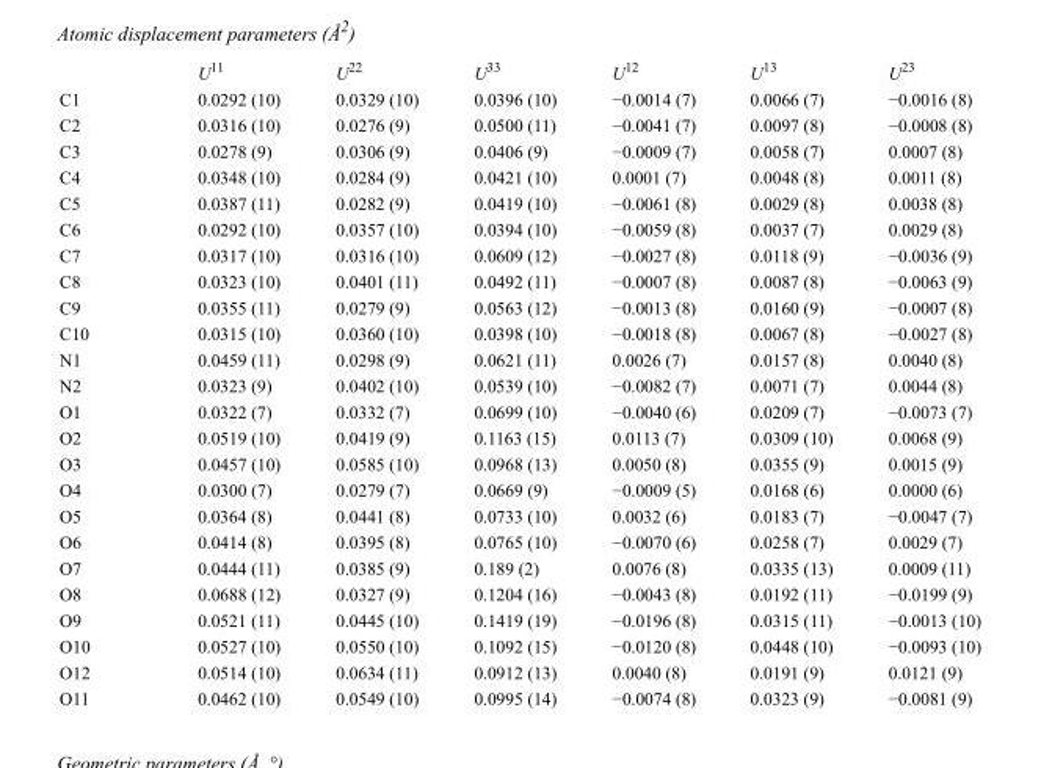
<table><thead><tr><td></td><td>U<sup>11</sup></td><td>U<sup>22</sup></td><td>U<sup>33</sup></td><td>U<sup>12</sup></td><td>U<sup>13</sup></td><td>U<sup>23</sup></td></tr></thead><tbody><tr><td>C1</td><td>0.0292 (10)</td><td>0.0329 (10)</td><td>0.0396 (10)</td><td>−0.0014 (7)</td><td>0.0066 (7)</td><td>−0.0016 (8)</td></tr><tr><td>C2</td><td>0.0316 (10)</td><td>0.0276 (9)</td><td>0.0500 (11)</td><td>−0.0041 (7)</td><td>0.0097 (8)</td><td>−0.0008 (8)</td></tr><tr><td>C3</td><td>0.0278 (9)</td><td>0.0306 (9)</td><td>0.0406 (9)</td><td>−0.0009 (7)</td><td>0.0058 (7)</td><td>0.0007 (8)</td></tr><tr><td>C4</td><td>0.0348 (10)</td><td>0.0284 (9)</td><td>0.0421 (10)</td><td>0.0001 (7)</td><td>0.0048 (8)</td><td>0.0011 (8)</td></tr><tr><td>C5</td><td>0.0387 (11)</td><td>0.0282 (9)</td><td>0.0419 (10)</td><td>−0.0061 (8)</td><td>0.0029 (8)</td><td>0.0038 (8)</td></tr><tr><td>C6</td><td>0.0292 (10)</td><td>0.0357 (10)</td><td>0.0394 (10)</td><td>−0.0059 (8)</td><td>0.0037 (7)</td><td>0.0029 (8)</td></tr><tr><td>C7</td><td>0.0317 (10)</td><td>0.0316 (10)</td><td>0.0609 (12)</td><td>−0.0027 (8)</td><td>0.0118 (9)</td><td>−0.0036 (9)</td></tr><tr><td>C8</td><td>0.0323 (10)</td><td>0.0401 (11)</td><td>0.0492 (11)</td><td>−0.0007 (8)</td><td>0.0087 (8)</td><td>−0.0063 (9)</td></tr><tr><td>C9</td><td>0.0355 (11)</td><td>0.0279 (9)</td><td>0.0563 (12)</td><td>−0.0013 (8)</td><td>0.0160 (9)</td><td>−0.0007 (8)</td></tr><tr><td>C10</td><td>0.0315 (10)</td><td>0.0360 (10)</td><td>0.0398 (10)</td><td>−0.0018 (8)</td><td>0.0067 (8)</td><td>−0.0027 (8)</td></tr><tr><td>N1</td><td>0.0459 (11)</td><td>0.0298 (9)</td><td>0.0621 (11)</td><td>0.0026 (7)</td><td>0.0157 (8)</td><td>0.0040 (8)</td></tr><tr><td>N2</td><td>0.0323 (9)</td><td>0.0402 (10)</td><td>0.0539 (10)</td><td>−0.0082 (7)</td><td>0.0071 (7)</td><td>0.0044 (8)</td></tr><tr><td>O1</td><td>0.0322 (7)</td><td>0.0332 (7)</td><td>0.0699 (10)</td><td>−0.0040 (6)</td><td>0.0209 (7)</td><td>−0.0073 (7)</td></tr><tr><td>O2</td><td>0.0519 (10)</td><td>0.0419 (9)</td><td>0.1163 (15)</td><td>0.0113 (7)</td><td>0.0309 (10)</td><td>0.0068 (9)</td></tr><tr><td>O3</td><td>0.0457 (10)</td><td>0.0585 (10)</td><td>0.0968 (13)</td><td>0.0050 (8)</td><td>0.0355 (9)</td><td>0.0015 (9)</td></tr><tr><td>O4</td><td>0.0300 (7)</td><td>0.0279 (7)</td><td>0.0669 (9)</td><td>−0.0009 (5)</td><td>0.0168 (6)</td><td>0.0000 (6)</td></tr><tr><td>O5</td><td>0.0364 (8)</td><td>0.0441 (8)</td><td>0.0733 (10)</td><td>0.0032 (6)</td><td>0.0183 (7)</td><td>−0.0047 (7)</td></tr><tr><td>O6</td><td>0.0414 (8)</td><td>0.0395 (8)</td><td>0.0765 (10)</td><td>−0.0070 (6)</td><td>0.0258 (7)</td><td>0.0029 (7)</td></tr><tr><td>O7</td><td>0.0444 (11)</td><td>0.0385 (9)</td><td>0.189 (2)</td><td>0.0076 (8)</td><td>0.0335 (13)</td><td>0.0009 (11)</td></tr><tr><td>O8</td><td>0.0688 (12)</td><td>0.0327 (9)</td><td>0.1204 (16)</td><td>−0.0043 (8)</td><td>0.0192 (11)</td><td>−0.0199 (9)</td></tr><tr><td>O9</td><td>0.0521 (11)</td><td>0.0445 (10)</td><td>0.1419 (19)</td><td>−0.0196 (8)</td><td>0.0315 (11)</td><td>−0.0013 (10)</td></tr><tr><td>O10</td><td>0.0527 (10)</td><td>0.0550 (10)</td><td>0.1092 (15)</td><td>−0.0120 (8)</td><td>0.0448 (10)</td><td>−0.0093 (10)</td></tr><tr><td>O12</td><td>0.0514 (10)</td><td>0.0634 (11)</td><td>0.0912 (13)</td><td>0.0040 (8)</td><td>0.0191 (9)</td><td>0.0121 (9)</td></tr><tr><td>O11</td><td>0.0462 (10)</td><td>0.0549 (10)</td><td>0.0995 (14)</td><td>−0.0074 (8)</td><td>0.0323 (9)</td><td>−0.0081 (9)</td></tr></tbody></table>